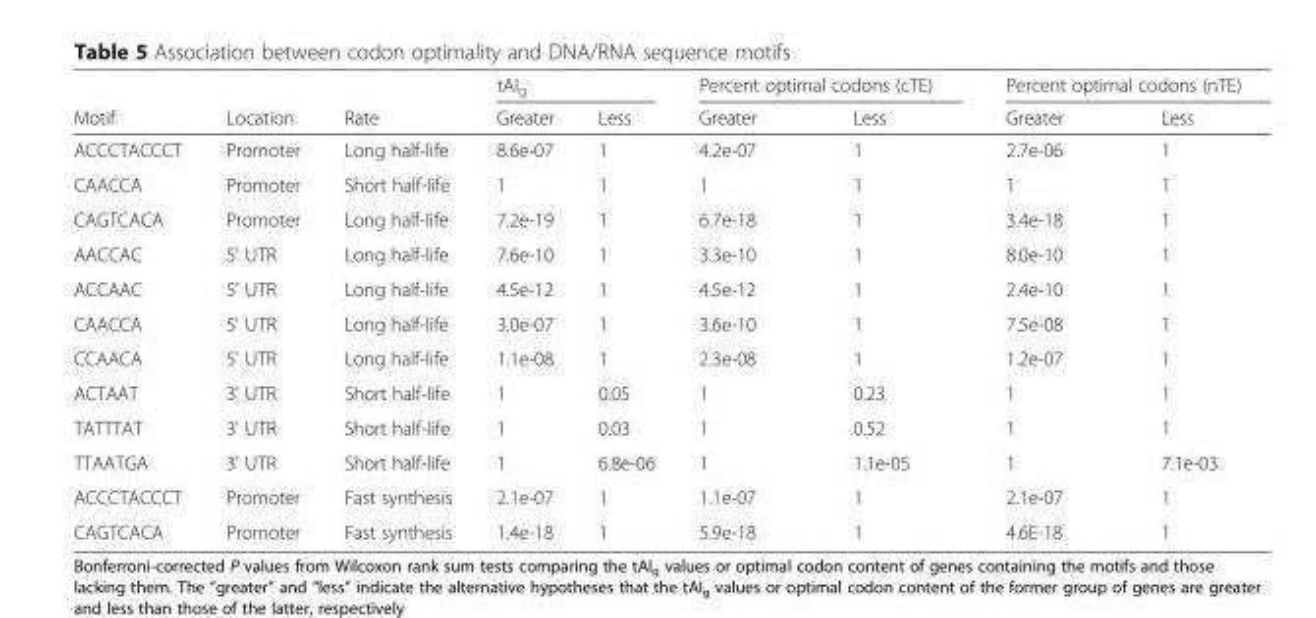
<table><thead><tr><td rowspan="2">Motif</td><td rowspan="2">Location</td><td rowspan="2">Rate</td><td colspan="2">tAI<sub>g</sub></td><td colspan="2">Percent optimal codons (cTE)</td><td colspan="2">Percent optimal codons (nTE)</td></tr><tr><td>Greater</td><td>Less</td><td>Greater</td><td>Less</td><td>Greater</td><td>Less</td></tr></thead><tbody><tr><td>ACCCTACCCT</td><td>Promoter</td><td>Long half-life</td><td>8.6e-07</td><td>1</td><td>4.2e-07</td><td>1</td><td>2.7e-06</td><td>1</td></tr><tr><td>CAACCA</td><td>Promoter</td><td>Short half-life</td><td>1</td><td>1</td><td>1</td><td>1</td><td>1</td><td>1</td></tr><tr><td>CAGTCACA</td><td>Promoter</td><td>Long half-life</td><td>7.2e-19</td><td>1</td><td>6.7e-18</td><td>1</td><td>3.4e-18</td><td>1</td></tr><tr><td>AACCAC</td><td>5&#x27; UTR</td><td>Long half-life</td><td>7.6e-10</td><td>1</td><td>3.3e-10</td><td>1</td><td>8.0e-10</td><td>1</td></tr><tr><td>ACCAAC</td><td>5&#x27; UTR</td><td>Long half-life</td><td>4.5e-12</td><td>1</td><td>4.5e-12</td><td>1</td><td>2.4e-10</td><td>1</td></tr><tr><td>CAACCA</td><td>5&#x27; UTR</td><td>Long half-life</td><td>3.0e-07</td><td>1</td><td>3.6e-10</td><td>1</td><td>7.5e-08</td><td>1</td></tr><tr><td>CCAACA</td><td>5&#x27; UTR</td><td>Long half-life</td><td>1.1e-08</td><td>1</td><td>2.3e-08</td><td>1</td><td>1.2e-07</td><td>1</td></tr><tr><td>ACTAAT</td><td>3&#x27; UTR</td><td>Short half-life</td><td>1</td><td>0.05</td><td>1</td><td>0.23</td><td>1</td><td>1</td></tr><tr><td>TATTTAT</td><td>3&#x27; UTR</td><td>Short half-life</td><td>1</td><td>0.03</td><td>1</td><td>0.52</td><td>1</td><td>1</td></tr><tr><td>TTAATGA</td><td>3&#x27; UTR</td><td>Short half-life</td><td>1</td><td>6.8e-06</td><td>1</td><td>1.1e-05</td><td>1</td><td>7.1e-03</td></tr><tr><td>ACCCTACCCT</td><td>Promoter</td><td>Fast synthesis</td><td>2.1e-07</td><td>1</td><td>1.1e-07</td><td>1</td><td>2.1e-07</td><td>1</td></tr><tr><td>CAGTCACA</td><td>Promoter</td><td>Fast synthesis</td><td>1.4e-18</td><td>1</td><td>5.9e-18</td><td>1</td><td>4.6E-18</td><td>1</td></tr></tbody></table>